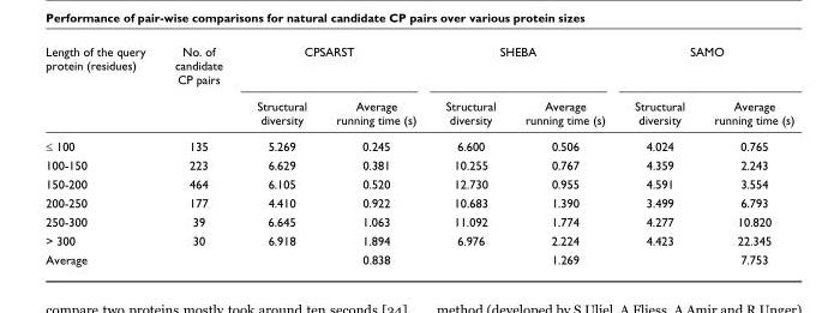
<table><thead><tr><td rowspan="2">Length of the query protein (residues)</td><td rowspan="2">No. of candidate CP pairs</td><td colspan="2">CPSARST</td><td colspan="2">SHEBA</td><td colspan="2">SAMO</td></tr><tr><td>Structural diversity</td><td>Average running time (s)</td><td>Structural diversity</td><td>Average running time (s)</td><td>Structural diversity</td><td>Average running time (s)</td></tr></thead><tbody><tr><td>≤ 100</td><td>135</td><td>5.269</td><td>0.245</td><td>6.600</td><td>0.506</td><td>4.024</td><td>0.765</td></tr><tr><td>100-150</td><td>223</td><td>6.629</td><td>0.381</td><td>10.255</td><td>0.767</td><td>4.359</td><td>2.243</td></tr><tr><td>150-200</td><td>464</td><td>6.105</td><td>0.520</td><td>12.730</td><td>0.955</td><td>4.591</td><td>3.554</td></tr><tr><td>200-250</td><td>177</td><td>4.410</td><td>0.922</td><td>10.683</td><td>1.390</td><td>3.499</td><td>6.793</td></tr><tr><td>250-300</td><td>39</td><td>6.645</td><td>1.063</td><td>11.092</td><td>1.774</td><td>4.277</td><td>10.820</td></tr><tr><td>&gt; 300</td><td>30</td><td>6.918</td><td>1.894</td><td>6.976</td><td>2.224</td><td>4.423</td><td>22.345</td></tr><tr><td>Average</td><td></td><td></td><td>0.838</td><td></td><td>1.269</td><td></td><td>7.753</td></tr></tbody></table>